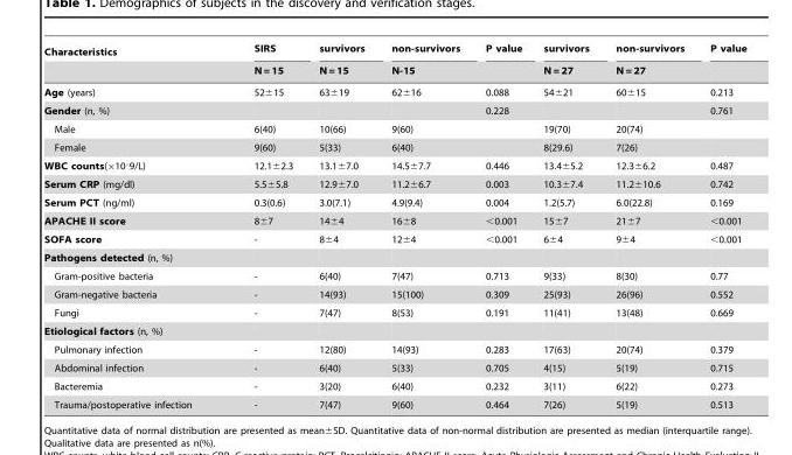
<table><thead><tr><td rowspan="2">Characteristics</td><td rowspan="2">SIRS N = 15</td><td rowspan="2">survivors N = 15</td><td rowspan="2">non-survivors N-15</td><td rowspan="2">P value</td><td rowspan="2">survivors N = 27</td><td rowspan="2">non-survivors N = 27</td><td rowspan="2">P value</td></tr><tr></tr></thead><tbody><tr><td>Age (years)</td><td>52±15</td><td>63±19</td><td>62±16</td><td>0.088</td><td>54±21</td><td>60±15</td><td>0.213</td></tr><tr><td>Gender (n, %)</td><td></td><td></td><td></td><td>0.228</td><td></td><td></td><td>0.761</td></tr><tr><td>Male</td><td>6(40)</td><td>10(66)</td><td>9(60)</td><td></td><td>19(70)</td><td>20(74)</td><td></td></tr><tr><td>Female</td><td>9(60)</td><td>5(33)</td><td>6(40)</td><td></td><td>8(29.6)</td><td>7(26)</td><td></td></tr><tr><td>WBC counts(610‘9/L)</td><td>12.1±2.3</td><td>13.1±7.0</td><td>14.5±7.7</td><td>0.446</td><td>13.4±5.2</td><td>12.3±6.2</td><td>0.487</td></tr><tr><td>Serum CRP (mg/dl)</td><td>5.5±5.8</td><td>12.9±7.0</td><td>11.2±6.7</td><td>0.003</td><td>10.3±7.4</td><td>11.2±10.6</td><td>0.742</td></tr><tr><td>Serum PCT (ng/ml)</td><td>0.3(0.6)</td><td>3.0(7.1)</td><td>4.9(9.4)</td><td>0.004</td><td>1.2(5.7)</td><td>6.0(22.8)</td><td>0.169</td></tr><tr><td>APACHE II score</td><td>8±7</td><td>14±4</td><td>16±8</td><td>&lt;0.001</td><td>15±7</td><td>21±7</td><td>&lt;0.001</td></tr><tr><td>SOFA score</td><td>-</td><td>8±4</td><td>12±4</td><td>&lt;0.001</td><td>6±4</td><td>9±4</td><td>&lt;0.001</td></tr><tr><td colspan="8">Pathogens detected (n, %)</td></tr><tr><td>Gram-positive bacteria</td><td>-</td><td>6(40)</td><td>7(47)</td><td>0.713</td><td>9(33)</td><td>8(30)</td><td>0.77</td></tr><tr><td>Gram-negative bacteria</td><td>-</td><td>14(93)</td><td>15(100)</td><td>0.309</td><td>25(93)</td><td>26(96)</td><td>0.552</td></tr><tr><td>Fungi</td><td>-</td><td>7(47)</td><td>8(53)</td><td>0.191</td><td>11(41)</td><td>13(48)</td><td>0.669</td></tr><tr><td colspan="8">Etiological factors (n, %)</td></tr><tr><td>Pulmonary infection</td><td>-</td><td>12(80)</td><td>14(93)</td><td>0.283</td><td>17(63)</td><td>20(74)</td><td>0.379</td></tr><tr><td>Abdominal infection</td><td>-</td><td>6(40)</td><td>5(33)</td><td>0.705</td><td>4(15)</td><td>5(19)</td><td>0.715</td></tr><tr><td>Bacteremia</td><td>-</td><td>3(20)</td><td>6(40)</td><td>0.232</td><td>3(11)</td><td>6(22)</td><td>0.273</td></tr><tr><td>Trauma/postoperative infection</td><td>-</td><td>7(47)</td><td>9(60)</td><td>0.464</td><td>7(26)</td><td>5(19)</td><td>0.513</td></tr></tbody></table>